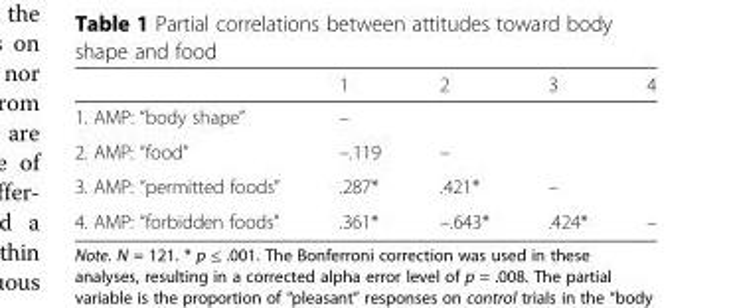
<table><thead><tr><td></td><td>1</td><td>2</td><td>3</td><td>4</td></tr></thead><tbody><tr><td>1. AMP: “body shape”</td><td>–</td><td></td><td></td><td></td></tr><tr><td>2. AMP: “food”</td><td>–.119</td><td>–</td><td></td><td></td></tr><tr><td>3. AMP: “permitted foods”</td><td>.287*</td><td>.421*</td><td>–</td><td></td></tr><tr><td>4. AMP: “forbidden foods”</td><td>.361*</td><td>–.643*</td><td>.424*</td><td>–</td></tr></tbody></table>